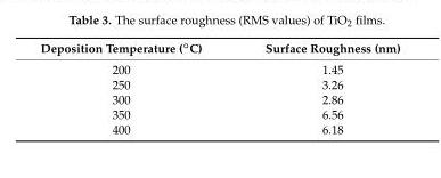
<table><thead><tr><td>Deposition Temperature (◦C)</td><td>Surface Roughness (nm)</td></tr></thead><tbody><tr><td>200</td><td>1.45</td></tr><tr><td>250</td><td>3.26</td></tr><tr><td>300</td><td>2.86</td></tr><tr><td>350</td><td>6.56</td></tr><tr><td>400</td><td>6.18</td></tr></tbody></table>